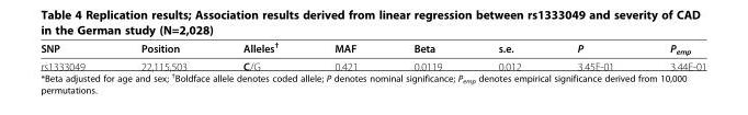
<table><thead><tr><td>SNP</td><td>Position</td><td>Alleles<sup>†</sup></td><td>MAF</td><td>Beta</td><td>s.e.</td><td>P</td><td>P<sub>emp</sub></td></tr></thead><tbody><tr><td>rs1333049</td><td>22,115,503</td><td>C/G</td><td>0.421</td><td>0.0119</td><td>0.012</td><td>3.45E-01</td><td>3.44E-01</td></tr></tbody></table>